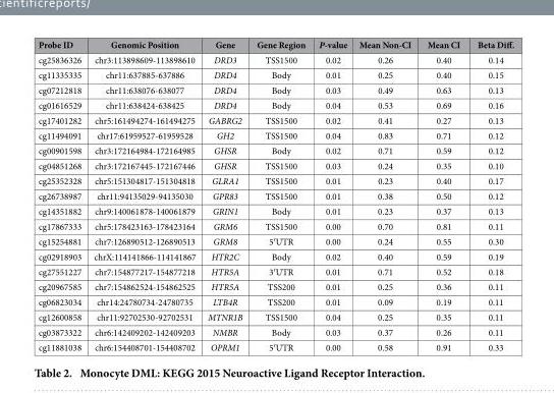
<table><thead><tr><td>Probe ID</td><td>Genomic Position</td><td>Gene</td><td>Gene Region</td><td>P-value</td><td>Mean Non-CI</td><td>Mean CI</td><td>Beta Diff.</td></tr></thead><tbody><tr><td>cg25836326</td><td>chr3:113898609-113898610</td><td>DRD3</td><td>TSS1500</td><td>0.02</td><td>0.26</td><td>0.40</td><td>0.14</td></tr><tr><td>cg11335335</td><td>chr11:637885-637886</td><td>DRD4</td><td>Body</td><td>0.01</td><td>0.25</td><td>0.40</td><td>0.15</td></tr><tr><td>cg07212818</td><td>chr11:638076-638077</td><td>DRD4</td><td>Body</td><td>0.03</td><td>0.49</td><td>0.63</td><td>0.13</td></tr><tr><td>cg01616529</td><td>chr11:638424-638425</td><td>DRD4</td><td>Body</td><td>0.04</td><td>0.53</td><td>0.69</td><td>0.16</td></tr><tr><td>cg17401282</td><td>chr5:161494274-161494275</td><td>GABRG2</td><td>TSS1500</td><td>0.02</td><td>0.41</td><td>0.27</td><td>0.13</td></tr><tr><td>cg11494091</td><td>chr17:61959527-61959528</td><td>GH2</td><td>TSS1500</td><td>0.04</td><td>0.83</td><td>0.71</td><td>0.12</td></tr><tr><td>cg00901598</td><td>chr3:172164984-172164985</td><td>GHSR</td><td>Body</td><td>0.02</td><td>0.71</td><td>0.59</td><td>0.12</td></tr><tr><td>cg04851268</td><td>chr3:172167445-172167446</td><td>GHSR</td><td>TSS1500</td><td>0.03</td><td>0.24</td><td>0.35</td><td>0.10</td></tr><tr><td>cg25352328</td><td>chr5:151304817-151304818</td><td>GLRA1</td><td>TSS1500</td><td>0.01</td><td>0.23</td><td>0.40</td><td>0.17</td></tr><tr><td>cg26738987</td><td>chr11:94135029-94135030</td><td>GPR83</td><td>TSS1500</td><td>0.01</td><td>0.38</td><td>0.50</td><td>0.12</td></tr><tr><td>cg14351882</td><td>chr9:140061878-140061879</td><td>GRIN1</td><td>Body</td><td>0.01</td><td>0.23</td><td>0.37</td><td>0.13</td></tr><tr><td>cg17867333</td><td>chr5:178423163-178423164</td><td>GRM6</td><td>TSS1500</td><td>0.00</td><td>0.70</td><td>0.81</td><td>0.11</td></tr><tr><td>cg15254881</td><td>chr7:126890512-126890513</td><td>GRM8</td><td>5′ UTR</td><td>0.00</td><td>0.24</td><td>0.55</td><td>0.30</td></tr><tr><td>cg02918903</td><td>chrX:114141866-114141867</td><td>HTR2C</td><td>Body</td><td>0.02</td><td>0.40</td><td>0.59</td><td>0.19</td></tr><tr><td>cg27551227</td><td>chr7:154877217-154877218</td><td>HTR5A</td><td>3′ UTR</td><td>0.01</td><td>0.71</td><td>0.52</td><td>0.18</td></tr><tr><td>cg20967585</td><td>chr7:154862524-154862525</td><td>HTR5A</td><td>TSS200</td><td>0.01</td><td>0.25</td><td>0.36</td><td>0.11</td></tr><tr><td>cg06823034</td><td>chr14:24780734-24780735</td><td>LTB4R</td><td>TSS200</td><td>0.01</td><td>0.09</td><td>0.19</td><td>0.11</td></tr><tr><td>cg12600858</td><td>chr11:92702530-92702531</td><td>MTNR1B</td><td>TSS1500</td><td>0.04</td><td>0.25</td><td>0.35</td><td>0.11</td></tr><tr><td>cg03873322</td><td>chr6:142409202-142409203</td><td>NMBR</td><td>Body</td><td>0.03</td><td>0.37</td><td>0.26</td><td>0.11</td></tr><tr><td>cg11881038</td><td>chr6:154408701-154408702</td><td>OPRM1</td><td>5′ UTR</td><td>0.00</td><td>0.58</td><td>0.91</td><td>0.33</td></tr></tbody></table>